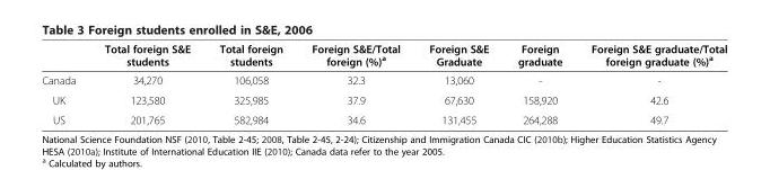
<table><thead><tr><td></td><td>Total foreign S&amp;E students</td><td>Total foreign students</td><td>Foreign S&amp;E/Total foreign (%)<sup>a</sup></td><td>Foreign S&amp;E Graduate</td><td>Foreign graduate</td><td>Foreign S&amp;E graduate/Total foreign graduate (%)<sup>a</sup></td></tr></thead><tbody><tr><td>Canada</td><td>34,270</td><td>106,058</td><td>32.3</td><td>13,060</td><td>-</td><td>-</td></tr><tr><td>UK</td><td>123,580</td><td>325,985</td><td>37.9</td><td>67,630</td><td>158,920</td><td>42.6</td></tr><tr><td>US</td><td>201,765</td><td>582,984</td><td>34.6</td><td>131,455</td><td>264,288</td><td>49.7</td></tr></tbody></table>